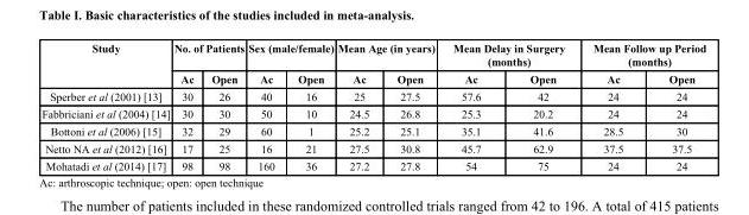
<table><thead><tr><td rowspan="2">Study</td><td colspan="2">No. of Patients</td><td colspan="2">Sex (male/female)</td><td colspan="2">Mean Age (in years)</td><td colspan="2">Mean Delay in Surgery (months)</td><td colspan="2">Mean Follow up Period (months)</td></tr><tr><td>Ac</td><td>Open</td><td>Ac</td><td>Open</td><td>Ac</td><td>Open</td><td>Ac</td><td>Open</td><td>Ac</td><td>Open</td></tr></thead><tbody><tr><td>Sperber et al (2001) [13]</td><td>30</td><td>26</td><td>40</td><td>16</td><td>25</td><td>27.5</td><td>57.6</td><td>42</td><td>24</td><td>24</td></tr><tr><td>Fabbriciani et al (2004) [14]</td><td>30</td><td>30</td><td>50</td><td>10</td><td>24.5</td><td>26.8</td><td>25.3</td><td>20.2</td><td>24</td><td>24</td></tr><tr><td>Bottoni et al (2006) [15]</td><td>32</td><td>29</td><td>60</td><td>1</td><td>25.2</td><td>25.1</td><td>35.1</td><td>41.6</td><td>28.5</td><td>30</td></tr><tr><td>Netto NA et al (2012) [16]</td><td>17</td><td>25</td><td>16</td><td>21</td><td>27.5</td><td>30.8</td><td>45.7</td><td>62.9</td><td>37.5</td><td>37.5</td></tr><tr><td>Mohatadi et al (2014) [17]</td><td>98</td><td>98</td><td>160</td><td>36</td><td>27.2</td><td>27.8</td><td>54</td><td>75</td><td>24</td><td>24</td></tr></tbody></table>